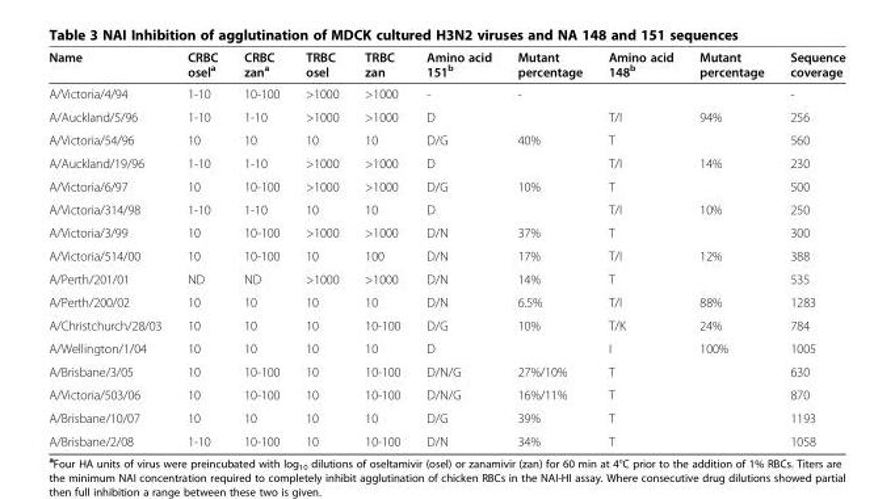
<table><thead><tr><td>Name</td><td>CRBC osel<sup>a</sup></td><td>CRBC zan<sup>a</sup></td><td>TRBC osel</td><td>TRBC zan</td><td>Amino acid 151<sup>b</sup></td><td>Mutant percentage</td><td>Amino acid 148<sup>b</sup></td><td>Mutant percentage</td><td>Sequence coverage</td></tr></thead><tbody><tr><td>A/Victoria/4/94</td><td>1-10</td><td>10-100</td><td>&gt;1000</td><td>&gt;1000</td><td>-</td><td>-</td><td></td><td></td><td>-</td></tr><tr><td>A/Auckland/5/96</td><td>1-10</td><td>1-10</td><td>&gt;1000</td><td>&gt;1000</td><td>D</td><td></td><td>T/I</td><td>94%</td><td>256</td></tr><tr><td>A/Victoria/54/96</td><td>10</td><td>10</td><td>10</td><td>10</td><td>D/G</td><td>40%</td><td>T</td><td></td><td>560</td></tr><tr><td>A/Auckland/19/96</td><td>1-10</td><td>1-10</td><td>&gt;1000</td><td>&gt;1000</td><td>D</td><td></td><td>T/I</td><td>14%</td><td>230</td></tr><tr><td>A/Victoria/6/97</td><td>10</td><td>10-100</td><td>&gt;1000</td><td>&gt;1000</td><td>D/G</td><td>10%</td><td>T</td><td></td><td>500</td></tr><tr><td>A/Victoria/314/98</td><td>1-10</td><td>1-10</td><td>10</td><td>10</td><td>D</td><td></td><td>T/I</td><td>10%</td><td>250</td></tr><tr><td>A/Victoria/3/99</td><td>10</td><td>10-100</td><td>&gt;1000</td><td>&gt;1000</td><td>D/N</td><td>37%</td><td>T</td><td></td><td>300</td></tr><tr><td>A/Victoria/514/00</td><td>10</td><td>10-100</td><td>10</td><td>100</td><td>D/N</td><td>17%</td><td>T/I</td><td>12%</td><td>388</td></tr><tr><td>A/Perth/201/01</td><td>ND</td><td>ND</td><td>&gt;1000</td><td>&gt;1000</td><td>D/N</td><td>14%</td><td>T</td><td></td><td>535</td></tr><tr><td>A/Perth/200/02</td><td>10</td><td>10</td><td>10</td><td>10</td><td>D/N</td><td>6.5%</td><td>T/I</td><td>88%</td><td>1283</td></tr><tr><td>A/Christchurch/28/03</td><td>10</td><td>10</td><td>10</td><td>10-100</td><td>D/G</td><td>10%</td><td>T/K</td><td>24%</td><td>784</td></tr><tr><td>A/Wellington/1/04</td><td>10</td><td>10</td><td>10</td><td>10</td><td>D</td><td></td><td>I</td><td>100%</td><td>1005</td></tr><tr><td>A/Brisbane/3/05</td><td>10</td><td>10-100</td><td>10</td><td>10-100</td><td>D/N/G</td><td>27%/10%</td><td>T</td><td></td><td>630</td></tr><tr><td>A/Victoria/503/06</td><td>10</td><td>10-100</td><td>10</td><td>10-100</td><td>D/N/G</td><td>16%/11%</td><td>T</td><td></td><td>870</td></tr><tr><td>A/Brisbane/10/07</td><td>10</td><td>10</td><td>10</td><td>10</td><td>D/G</td><td>39%</td><td>T</td><td></td><td>1193</td></tr><tr><td>A/Brisbane/2/08</td><td>1-10</td><td>10-100</td><td>10</td><td>10-100</td><td>D/N</td><td>34%</td><td>T</td><td></td><td>1058</td></tr></tbody></table>